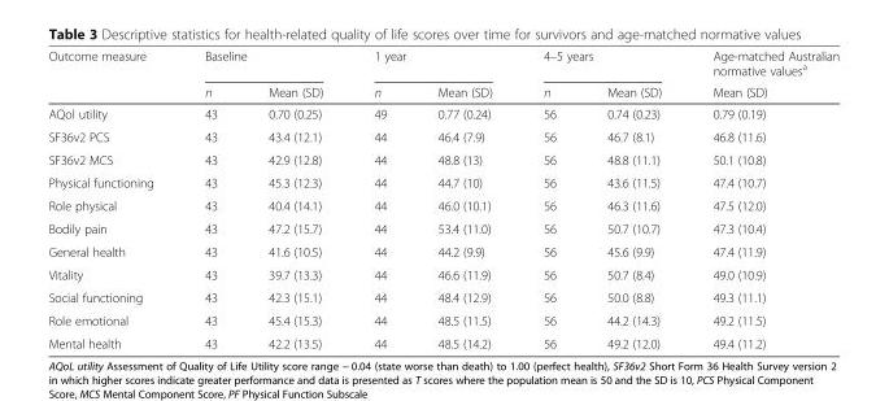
<table><thead><tr><td rowspan="2">Outcome measure</td><td colspan="2">Baseline</td><td colspan="2">1 year</td><td colspan="2">4–5 years</td><td rowspan="2">Age-matched Australian normative values<sup>a</sup> Mean (SD)</td></tr><tr><td>n</td><td>Mean (SD)</td><td>n</td><td>Mean (SD)</td><td>n</td><td>Mean (SD)</td></tr></thead><tbody><tr><td>AQol utility</td><td>43</td><td>0.70 (0.25)</td><td>49</td><td>0.77 (0.24)</td><td>56</td><td>0.74 (0.23)</td><td>0.79 (0.19)</td></tr><tr><td>SF36v2 PCS</td><td>43</td><td>43.4 (12.1)</td><td>44</td><td>46.4 (7.9)</td><td>56</td><td>46.7 (8.1)</td><td>46.8 (11.6)</td></tr><tr><td>SF36v2 MCS</td><td>43</td><td>42.9 (12.8)</td><td>44</td><td>48.8 (13)</td><td>56</td><td>48.8 (11.1)</td><td>50.1 (10.8)</td></tr><tr><td>Physical functioning</td><td>43</td><td>45.3 (12.3)</td><td>44</td><td>44.7 (10)</td><td>56</td><td>43.6 (11.5)</td><td>47.4 (10.7)</td></tr><tr><td>Role physical</td><td>43</td><td>40.4 (14.1)</td><td>44</td><td>46.0 (10.1)</td><td>56</td><td>46.3 (11.6)</td><td>47.5 (12.0)</td></tr><tr><td>Bodily pain</td><td>43</td><td>47.2 (15.7)</td><td>44</td><td>53.4 (11.0)</td><td>56</td><td>50.7 (10.7)</td><td>47.3 (10.4)</td></tr><tr><td>General health</td><td>43</td><td>41.6 (10.5)</td><td>44</td><td>44.2 (9.9)</td><td>56</td><td>45.6 (9.9)</td><td>47.4 (11.9)</td></tr><tr><td>Vitality</td><td>43</td><td>39.7 (13.3)</td><td>44</td><td>46.6 (11.9)</td><td>56</td><td>50.7 (8.4)</td><td>49.0 (10.9)</td></tr><tr><td>Social functioning</td><td>43</td><td>42.3 (15.1)</td><td>44</td><td>48.4 (12.9)</td><td>56</td><td>50.0 (8.8)</td><td>49.3 (11.1)</td></tr><tr><td>Role emotional</td><td>43</td><td>45.4 (15.3)</td><td>44</td><td>48.5 (11.5)</td><td>56</td><td>44.2 (14.3)</td><td>49.2 (11.5)</td></tr><tr><td>Mental health</td><td>43</td><td>42.2 (13.5)</td><td>44</td><td>48.5 (14.2)</td><td>56</td><td>49.2 (12.0)</td><td>49.4 (11.2)</td></tr></tbody></table>